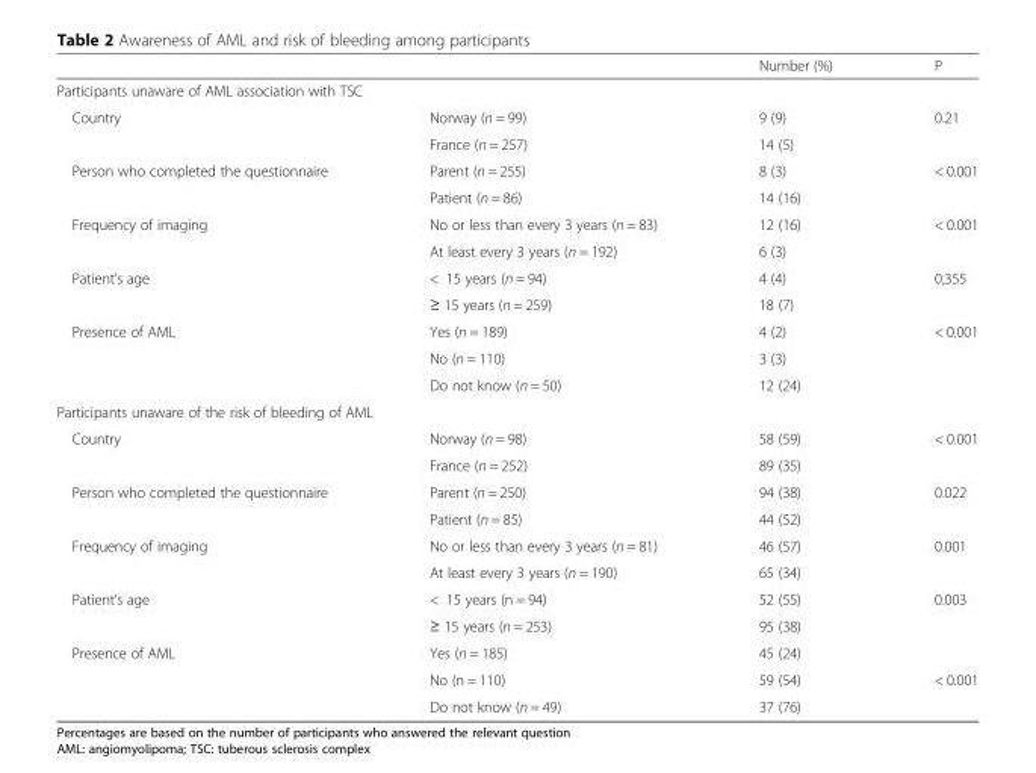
<table><thead><tr><td></td><td></td><td>Number (%)</td><td>P</td></tr></thead><tbody><tr><td colspan="4">Participants unaware of AML association with TSC</td></tr><tr><td rowspan="2">Country</td><td>Norway (n = 99)</td><td>9 (9)</td><td rowspan="2">0.21</td></tr><tr><td>France (n = 257)</td><td>14 (5)</td></tr><tr><td rowspan="2">Person who completed the questionnaire</td><td>Parent (n = 255)</td><td>8 (3)</td><td rowspan="2">&lt; 0.001</td></tr><tr><td>Patient (n = 86)</td><td>14 (16)</td></tr><tr><td rowspan="2">Frequency of imaging</td><td>No or less than every 3 years (n = 83)</td><td>12 (16)</td><td rowspan="2">&lt; 0.001</td></tr><tr><td>At least every 3 years (n = 192)</td><td>6 (3)</td></tr><tr><td rowspan="2">Patient’s age</td><td>&lt; 15 years (n = 94)</td><td>4 (4)</td><td rowspan="2">0,355</td></tr><tr><td>≥ 15 years (n = 259)</td><td>18 (7)</td></tr><tr><td rowspan="3">Presence of AML</td><td>Yes (n = 189)</td><td>4 (2)</td><td rowspan="3">&lt; 0.001</td></tr><tr><td>No (n = 110)</td><td>3 (3)</td></tr><tr><td>Do not know (n = 50)</td><td>12 (24)</td></tr><tr><td colspan="4">Participants unaware of the risk of bleeding of AML</td></tr><tr><td rowspan="2">Country</td><td>Norway (n = 98)</td><td>58 (59)</td><td>&lt; 0.001</td></tr><tr><td>France (n = 252)</td><td>89 (35)</td><td></td></tr><tr><td rowspan="2">Person who completed the questionnaire</td><td>Parent (n = 250)</td><td>94 (38)</td><td rowspan="2">0.022</td></tr><tr><td>Patient (n = 85)</td><td>44 (52)</td></tr><tr><td rowspan="2">Frequency of imaging</td><td>No or less than every 3 years (n = 81)</td><td>46 (57)</td><td>0.001</td></tr><tr><td>At least every 3 years (n = 190)</td><td>65 (34)</td><td></td></tr><tr><td rowspan="2">Patient’s age</td><td>&lt; 15 years (n = 94)</td><td>52 (55)</td><td>0.003</td></tr><tr><td>≥ 15 years (n = 253)</td><td>95 (38)</td><td></td></tr><tr><td rowspan="3">Presence of AML</td><td>Yes (n = 185)</td><td>45 (24)</td><td></td></tr><tr><td>No (n = 110)</td><td>59 (54)</td><td>&lt; 0.001</td></tr><tr><td>Do not know (n = 49)</td><td>37 (76)</td><td></td></tr></tbody></table>